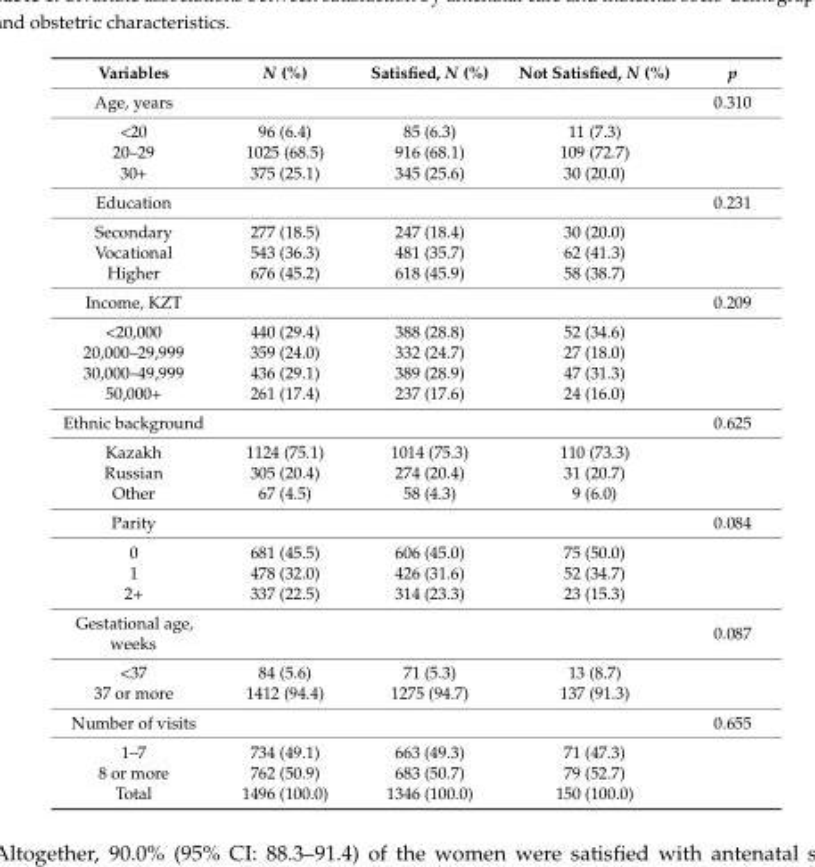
<table><thead><tr><td>Variables</td><td>N (%)</td><td>Satisfied, N (%)</td><td>Not Satisfied, N (%)</td><td>p</td></tr></thead><tbody><tr><td>Age, years</td><td></td><td></td><td></td><td>0.310</td></tr><tr><td>&lt;20</td><td>96 (6.4)</td><td>85 (6.3)</td><td>11 (7.3)</td><td></td></tr><tr><td>20–29</td><td>1025 (68.5)</td><td>916 (68.1)</td><td>109 (72.7)</td><td></td></tr><tr><td>30+</td><td>375 (25.1)</td><td>345 (25.6)</td><td>30 (20.0)</td><td></td></tr><tr><td>Education</td><td></td><td></td><td></td><td>0.231</td></tr><tr><td>Secondary</td><td>277 (18.5)</td><td>247 (18.4)</td><td>30 (20.0)</td><td></td></tr><tr><td>Vocational</td><td>543 (36.3)</td><td>481 (35.7)</td><td>62 (41.3)</td><td></td></tr><tr><td>Higher</td><td>676 (45.2)</td><td>618 (45.9)</td><td>58 (38.7)</td><td></td></tr><tr><td>Income, KZT</td><td></td><td></td><td></td><td>0.209</td></tr><tr><td>&lt;20,000</td><td>440 (29.4)</td><td>388 (28.8)</td><td>52 (34.6)</td><td></td></tr><tr><td>20,000–29,999</td><td>359 (24.0)</td><td>332 (24.7)</td><td>27 (18.0)</td><td></td></tr><tr><td>30,000–49,999</td><td>436 (29.1)</td><td>389 (28.9)</td><td>47 (31.3)</td><td></td></tr><tr><td>50,000+</td><td>261 (17.4)</td><td>237 (17.6)</td><td>24 (16.0)</td><td></td></tr><tr><td>Ethnic background</td><td></td><td></td><td></td><td>0.625</td></tr><tr><td>Kazakh</td><td>1124 (75.1)</td><td>1014 (75.3)</td><td>110 (73.3)</td><td></td></tr><tr><td>Russian</td><td>305 (20.4)</td><td>274 (20.4)</td><td>31 (20.7)</td><td></td></tr><tr><td>Other</td><td>67 (4.5)</td><td>58 (4.3)</td><td>9 (6.0)</td><td></td></tr><tr><td>Parity</td><td></td><td></td><td></td><td>0.084</td></tr><tr><td>0</td><td>681 (45.5)</td><td>606 (45.0)</td><td>75 (50.0)</td><td></td></tr><tr><td>1</td><td>478 (32.0)</td><td>426 (31.6)</td><td>52 (34.7)</td><td></td></tr><tr><td>2+</td><td>337 (22.5)</td><td>314 (23.3)</td><td>23 (15.3)</td><td></td></tr><tr><td>Gestational age, weeks</td><td></td><td></td><td></td><td>0.087</td></tr><tr><td>&lt;37</td><td>84 (5.6)</td><td>71 (5.3)</td><td>13 (8.7)</td><td></td></tr><tr><td>37 or more</td><td>1412 (94.4)</td><td>1275 (94.7)</td><td>137 (91.3)</td><td></td></tr><tr><td>Number of visits</td><td></td><td></td><td></td><td>0.655</td></tr><tr><td>1–7</td><td>734 (49.1)</td><td>663 (49.3)</td><td>71 (47.3)</td><td></td></tr><tr><td>8 or more</td><td>762 (50.9)</td><td>683 (50.7)</td><td>79 (52.7)</td><td></td></tr><tr><td>Total</td><td>1496 (100.0)</td><td>1346 (100.0)</td><td>150 (100.0)</td><td></td></tr></tbody></table>